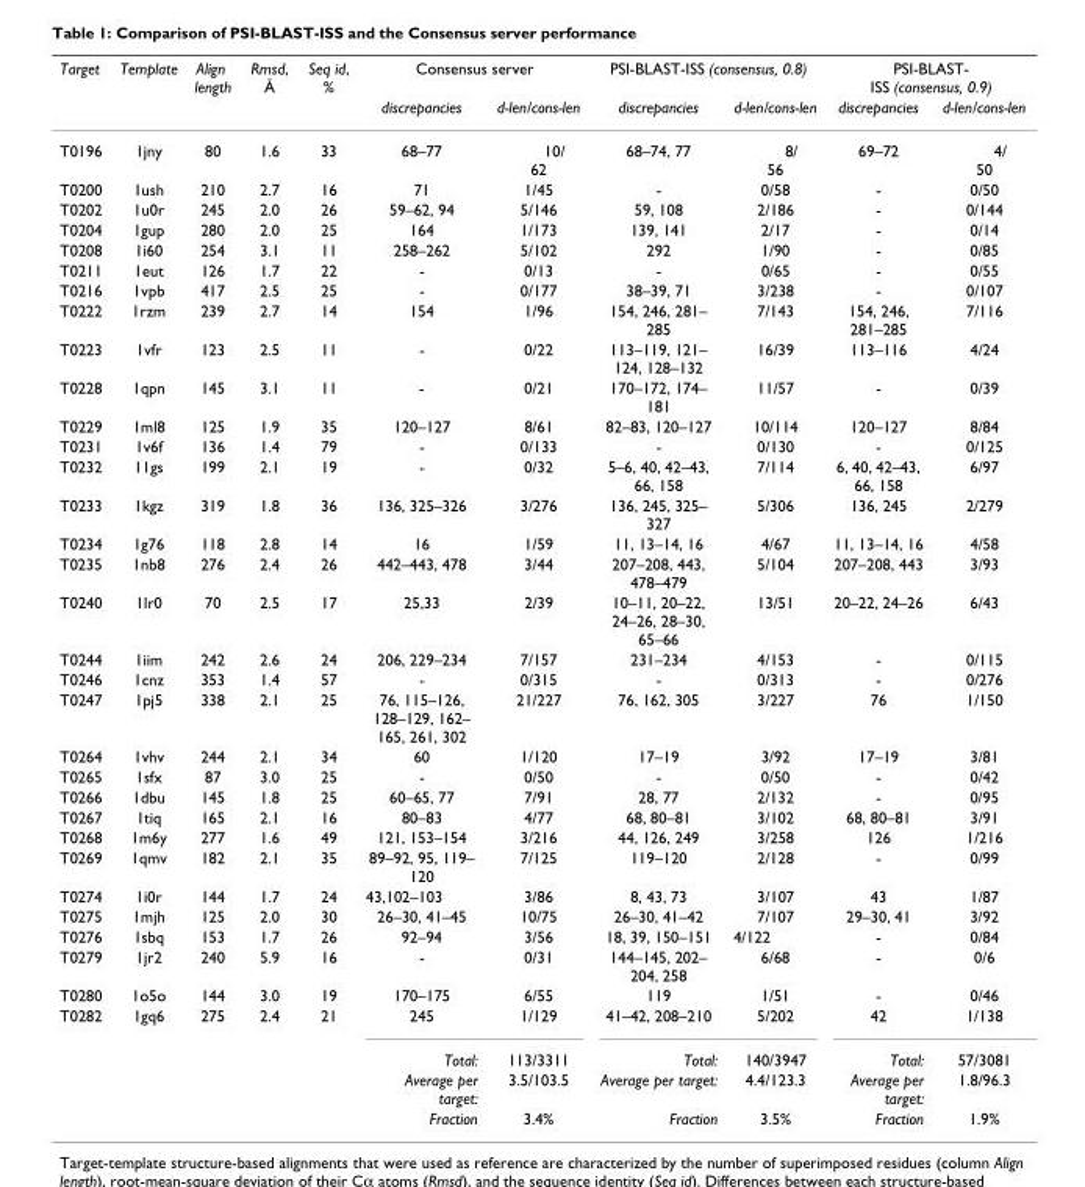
<table><thead><tr><td rowspan="2">Target</td><td rowspan="2">Template</td><td rowspan="2">Align length</td><td rowspan="2">Rmsd, Å</td><td rowspan="2">Seq id, %</td><td colspan="2">Consensus server</td><td colspan="2">PSI-BLAST-ISS (consensus, 0.8)</td><td colspan="2">PSI-BLAST- ISS (consensus, 0.9)</td></tr><tr><td>discrepancies</td><td>d-len/cons-len</td><td>discrepancies</td><td>d-len/cons-len</td><td>discrepancies</td><td>d-len/cons-len</td></tr></thead><tbody><tr><td>T0196</td><td>1jny</td><td>80</td><td>1.6</td><td>33</td><td>68–77</td><td>10/ 62</td><td>68–74, 77</td><td>8/ 56</td><td>69–72</td><td>4/ 50</td></tr><tr><td>T0200</td><td>1ush</td><td>210</td><td>2.7</td><td>16</td><td>71</td><td>1/45</td><td>-</td><td>0/58</td><td>-</td><td>0/50</td></tr><tr><td>T0202</td><td>1u0r</td><td>245</td><td>2.0</td><td>26</td><td>59–62, 94</td><td>5/146</td><td>59, 108</td><td>2/186</td><td>-</td><td>0/144</td></tr><tr><td>T0204</td><td>1gup</td><td>280</td><td>2.0</td><td>25</td><td>164</td><td>1/173</td><td>139, 141</td><td>2/17</td><td>-</td><td>0/14</td></tr><tr><td>T0208</td><td>1i60</td><td>254</td><td>3.1</td><td>11</td><td>258–262</td><td>5/102</td><td>292</td><td>1/90</td><td>-</td><td>0/85</td></tr><tr><td>T0211</td><td>1eut</td><td>126</td><td>1.7</td><td>22</td><td>-</td><td>0/13</td><td>-</td><td>0/65</td><td>-</td><td>0/55</td></tr><tr><td>T0216</td><td>1vpb</td><td>417</td><td>2.5</td><td>25</td><td>-</td><td>0/177</td><td>38–39, 71</td><td>3/238</td><td>-</td><td>0/107</td></tr><tr><td>T0222</td><td>1rzm</td><td>239</td><td>2.7</td><td>14</td><td>154</td><td>1/96</td><td>154, 246, 281– 285</td><td>7/143</td><td>154, 246, 281–285</td><td>7/116</td></tr><tr><td>T0223</td><td>1vfr</td><td>123</td><td>2.5</td><td>11</td><td>-</td><td>0/22</td><td>113–119, 121– 124, 128–132</td><td>16/39</td><td>113–116</td><td>4/24</td></tr><tr><td>T0228</td><td>1qpn</td><td>145</td><td>3.1</td><td>11</td><td>-</td><td>0/21</td><td>170–172, 174– 181</td><td>11/57</td><td>-</td><td>0/39</td></tr><tr><td>T0229</td><td>1ml8</td><td>125</td><td>1.9</td><td>35</td><td>120–127</td><td>8/61</td><td>82–83, 120–127</td><td>10/114</td><td>120–127</td><td>8/84</td></tr><tr><td>T0231</td><td>1v6f</td><td>136</td><td>1.4</td><td>79</td><td>-</td><td>0/133</td><td>-</td><td>0/130</td><td>-</td><td>0/125</td></tr><tr><td>T0232</td><td>11gs</td><td>199</td><td>2.1</td><td>19</td><td>-</td><td>0/32</td><td>5–6, 40, 42–43, 66, 158</td><td>7/114</td><td>6, 40, 42–43, 66, 158</td><td>6/97</td></tr><tr><td>T0233</td><td>1kgz</td><td>319</td><td>1.8</td><td>36</td><td>136, 325–326</td><td>3/276</td><td>136, 245, 325– 327</td><td>5/306</td><td>136, 245</td><td>2/279</td></tr><tr><td>T0234</td><td>1g76</td><td>118</td><td>2.8</td><td>14</td><td>16</td><td>1/59</td><td>11, 13–14, 16</td><td>4/67</td><td>11, 13–14, 16</td><td>4/58</td></tr><tr><td>T0235</td><td>1nb8</td><td>276</td><td>2.4</td><td>26</td><td>442–443, 478</td><td>3/44</td><td>207–208, 443, 478–479</td><td>5/104</td><td>207–208, 443</td><td>3/93</td></tr><tr><td>T0240</td><td>1lr0</td><td>70</td><td>2.5</td><td>17</td><td>25,33</td><td>2/39</td><td>10–11, 20–22, 24–26, 28–30, 65–66</td><td>13/51</td><td>20–22, 24–26</td><td>6/43</td></tr><tr><td>T0244</td><td>1iim</td><td>242</td><td>2.6</td><td>24</td><td>206, 229–234</td><td>7/157</td><td>231–234</td><td>4/153</td><td>-</td><td>0/115</td></tr><tr><td>T0246</td><td>1cnz</td><td>353</td><td>1.4</td><td>57</td><td>-</td><td>0/315</td><td>-</td><td>0/313</td><td>-</td><td>0/276</td></tr><tr><td>T0247</td><td>1pj5</td><td>338</td><td>2.1</td><td>25</td><td>76, 115–126, 128–129, 162– 165, 261, 302</td><td>21/227</td><td>76, 162, 305</td><td>3/227</td><td>76</td><td>1/150</td></tr><tr><td>T0264</td><td>1vhv</td><td>244</td><td>2.1</td><td>34</td><td>60</td><td>1/120</td><td>17–19</td><td>3/92</td><td>17–19</td><td>3/81</td></tr><tr><td>T0265</td><td>1sfx</td><td>87</td><td>3.0</td><td>25</td><td>-</td><td>0/50</td><td>-</td><td>0/50</td><td>-</td><td>0/42</td></tr><tr><td>T0266</td><td>1dbu</td><td>145</td><td>1.8</td><td>25</td><td>60–65, 77</td><td>7/91</td><td>28, 77</td><td>2/132</td><td>-</td><td>0/95</td></tr><tr><td>T0267</td><td>1tiq</td><td>165</td><td>2.1</td><td>16</td><td>80–83</td><td>4/77</td><td>68, 80–81</td><td>3/102</td><td>68, 80–81</td><td>3/91</td></tr><tr><td>T0268</td><td>1m6y</td><td>277</td><td>1.6</td><td>49</td><td>121, 153–154</td><td>3/216</td><td>44, 126, 249</td><td>3/258</td><td>126</td><td>1/216</td></tr><tr><td>T0269</td><td>1qmv</td><td>182</td><td>2.1</td><td>35</td><td>89–92, 95, 119– 120</td><td>7/125</td><td>119–120</td><td>2/128</td><td>-</td><td>0/99</td></tr><tr><td>T0274</td><td>1i0r</td><td>144</td><td>1.7</td><td>24</td><td>43,102–103</td><td>3/86</td><td>8, 43, 73</td><td>3/107</td><td>43</td><td>1/87</td></tr><tr><td>T0275</td><td>1mjh</td><td>125</td><td>2.0</td><td>30</td><td>26–30, 41–45</td><td>10/75</td><td>26–30, 41–42</td><td>7/107</td><td>29–30, 41</td><td>3/92</td></tr><tr><td>T0276</td><td>1sbq</td><td>153</td><td>1.7</td><td>26</td><td>92–94</td><td>3/56</td><td>18, 39, 150–151</td><td>4/122</td><td>-</td><td>0/84</td></tr><tr><td>T0279</td><td>1jr2</td><td>240</td><td>5.9</td><td>16</td><td>-</td><td>0/31</td><td>144–145, 202– 204, 258</td><td>6/68</td><td>-</td><td>0/6</td></tr><tr><td>T0280</td><td>1o5o</td><td>144</td><td>3.0</td><td>19</td><td>170–175</td><td>6/55</td><td>119</td><td>1/51</td><td>-</td><td>0/46</td></tr><tr><td rowspan="4">T0282</td><td>1gq6</td><td>275</td><td>2.4</td><td>21</td><td>245</td><td>1/129</td><td>41–42, 208–210</td><td>5/202</td><td>42</td><td>1/138</td></tr><tr><td></td><td></td><td></td><td></td><td>Total:</td><td>113/3311</td><td>Total:</td><td>140/3947</td><td>Total:</td><td>57/3081</td></tr><tr><td></td><td></td><td></td><td></td><td>Average per target:</td><td>3.5/103.5</td><td>Average per target:</td><td>4.4/123.3</td><td>Average per target:</td><td>1.8/96.3</td></tr><tr><td></td><td></td><td></td><td></td><td>Fraction</td><td>3.4%</td><td>Fraction</td><td>3.5%</td><td>Fraction</td><td>1.9%</td></tr></tbody></table>